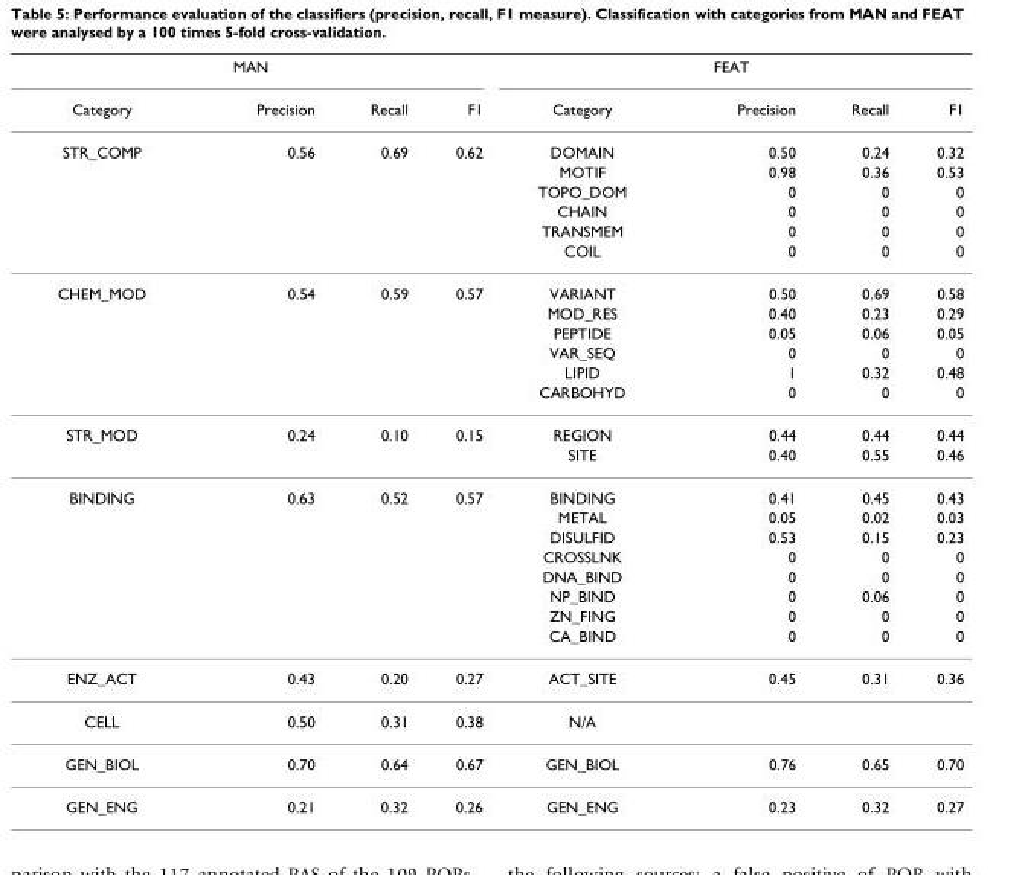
<table><thead><tr><td colspan="4">MAN</td><td colspan="4">FEAT</td></tr><tr><td>Category</td><td>Precision</td><td>Recall</td><td>F1</td><td>Category</td><td>Precision</td><td>Recall</td><td>F1</td></tr></thead><tbody><tr><td rowspan="6">STR_COMP</td><td>0.56</td><td>0.69</td><td>0.62</td><td>DOMAIN</td><td>0.50</td><td>0.24</td><td>0.32</td></tr><tr><td></td><td></td><td></td><td>MOTIF</td><td>0.98</td><td>0.36</td><td>0.53</td></tr><tr><td></td><td></td><td></td><td>TOPO_DOM</td><td>0</td><td>0</td><td>0</td></tr><tr><td></td><td></td><td></td><td>CHAIN</td><td>0</td><td>0</td><td>0</td></tr><tr><td></td><td></td><td></td><td>TRANSMEM</td><td>0</td><td>0</td><td>0</td></tr><tr><td></td><td></td><td></td><td>COIL</td><td>0</td><td>0</td><td>0</td></tr><tr><td rowspan="6">CHEM_MOD</td><td>0.54</td><td>0.59</td><td>0.57</td><td>VARIANT</td><td>0.50</td><td>0.69</td><td>0.58</td></tr><tr><td></td><td></td><td></td><td>MOD_RES</td><td>0.40</td><td>0.23</td><td>0.29</td></tr><tr><td></td><td></td><td></td><td>PEPTIDE</td><td>0.05</td><td>0.06</td><td>0.05</td></tr><tr><td></td><td></td><td></td><td>VAR_SEQ</td><td>0</td><td>0</td><td>0</td></tr><tr><td></td><td></td><td></td><td>LIPID</td><td>1</td><td>0.32</td><td>0.48</td></tr><tr><td></td><td></td><td></td><td>CARBOHYD</td><td>0</td><td>0</td><td>0</td></tr><tr><td rowspan="2">STR_MOD</td><td>0.24</td><td>0.10</td><td>0.15</td><td>REGION</td><td>0.44</td><td>0.44</td><td>0.44</td></tr><tr><td></td><td></td><td></td><td>SITE</td><td>0.40</td><td>0.55</td><td>0.46</td></tr><tr><td rowspan="8">BINDING</td><td>0.63</td><td>0.52</td><td>0.57</td><td>BINDING</td><td>0.41</td><td>0.45</td><td>0.43</td></tr><tr><td></td><td></td><td></td><td>METAL</td><td>0.05</td><td>0.02</td><td>0.03</td></tr><tr><td></td><td></td><td></td><td>DISULFID</td><td>0.53</td><td>0.15</td><td>0.23</td></tr><tr><td></td><td></td><td></td><td>CROSSLNK</td><td>0</td><td>0</td><td>0</td></tr><tr><td></td><td></td><td></td><td>DNA_BIND</td><td>0</td><td>0</td><td>0</td></tr><tr><td></td><td></td><td></td><td>NP_BIND</td><td>0</td><td>0.06</td><td>0</td></tr><tr><td></td><td></td><td></td><td>ZN_FING</td><td>0</td><td>0</td><td>0</td></tr><tr><td></td><td></td><td></td><td>CA_BIND</td><td>0</td><td>0</td><td>0</td></tr><tr><td>ENZ_ACT</td><td>0.43</td><td>0.20</td><td>0.27</td><td>ACT_SITE</td><td>0.45</td><td>0.31</td><td>0.36</td></tr><tr><td>CELL</td><td>0.50</td><td>0.31</td><td>0.38</td><td>N/A</td><td></td><td></td><td></td></tr><tr><td>GEN_BIOL</td><td>0.70</td><td>0.64</td><td>0.67</td><td>GEN_BIOL</td><td>0.76</td><td>0.65</td><td>0.70</td></tr><tr><td>GEN_ENG</td><td>0.21</td><td>0.32</td><td>0.26</td><td>GEN_ENG</td><td>0.23</td><td>0.32</td><td>0.27</td></tr></tbody></table>